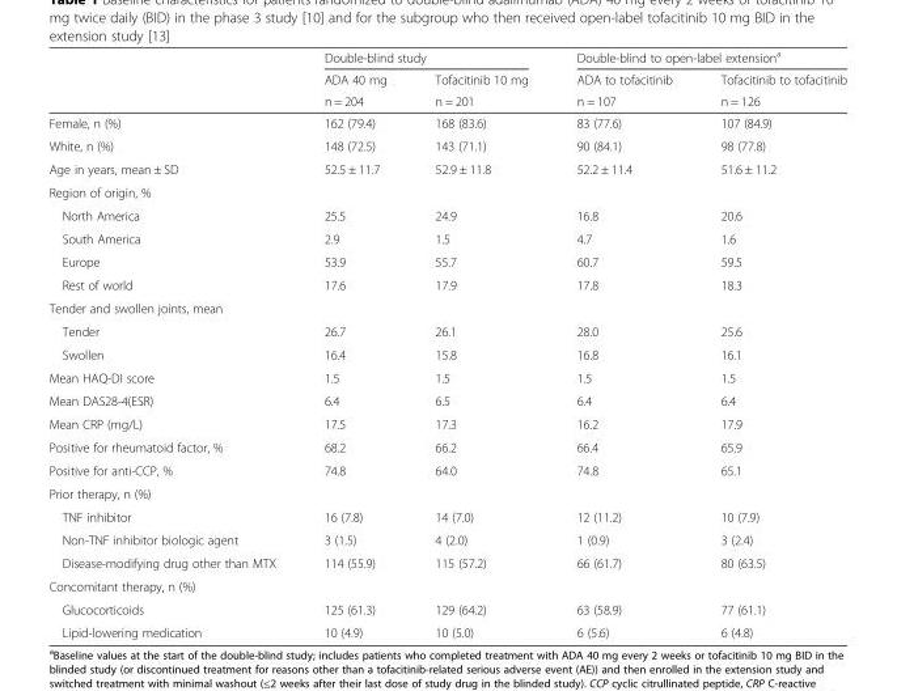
<table><thead><tr><td rowspan="3"></td><td colspan="2">Double-blind study</td><td colspan="2">Double-blind to open-label extension<sup>a</sup></td></tr><tr><td rowspan="2">ADA 40 mg n = 204</td><td rowspan="2">Tofacitinib 10 mg n = 201</td><td rowspan="2">ADA to tofacitinib n = 107</td><td rowspan="2">Tofacitinib to tofacitinib n = 126</td></tr><tr></tr></thead><tbody><tr><td>Female, n (%)</td><td>162 (79.4)</td><td>168 (83.6)</td><td>83 (77.6)</td><td>107 (84.9)</td></tr><tr><td>White, n (%)</td><td>148 (72.5)</td><td>143 (71.1)</td><td>90 (84.1)</td><td>98 (77.8)</td></tr><tr><td>Age in years, mean ± SD</td><td>52.5 ± 11.7</td><td>52.9 ± 11.8</td><td>52.2 ± 11.4</td><td>51.6 ± 11.2</td></tr><tr><td colspan="5">Region of origin, %</td></tr><tr><td>North America</td><td>25.5</td><td>24.9</td><td>16.8</td><td>20.6</td></tr><tr><td>South America</td><td>2.9</td><td>1.5</td><td>4.7</td><td>1.6</td></tr><tr><td>Europe</td><td>53.9</td><td>55.7</td><td>60.7</td><td>59.5</td></tr><tr><td>Rest of world</td><td>17.6</td><td>17.9</td><td>17.8</td><td>18.3</td></tr><tr><td colspan="5">Tender and swollen joints, mean</td></tr><tr><td>Tender</td><td>26.7</td><td>26.1</td><td>28.0</td><td>25.6</td></tr><tr><td>Swollen</td><td>16.4</td><td>15.8</td><td>16.8</td><td>16.1</td></tr><tr><td>Mean HAQ-DI score</td><td>1.5</td><td>1.5</td><td>1.5</td><td>1.5</td></tr><tr><td>Mean DAS28-4(ESR)</td><td>6.4</td><td>6.5</td><td>6.4</td><td>6.4</td></tr><tr><td>Mean CRP (mg/L)</td><td>17.5</td><td>17.3</td><td>16.2</td><td>17.9</td></tr><tr><td>Positive for rheumatoid factor, %</td><td>68.2</td><td>66.2</td><td>66.4</td><td>65.9</td></tr><tr><td>Positive for anti-CCP, %</td><td>74.8</td><td>64.0</td><td>74.8</td><td>65.1</td></tr><tr><td colspan="5">Prior therapy, n (%)</td></tr><tr><td>TNF inhibitor</td><td>16 (7.8)</td><td>14 (7.0)</td><td>12 (11.2)</td><td>10 (7.9)</td></tr><tr><td>Non-TNF inhibitor biologic agent</td><td>3 (1.5)</td><td>4 (2.0)</td><td>1 (0.9)</td><td>3 (2.4)</td></tr><tr><td>Disease-modifying drug other than MTX</td><td>114 (55.9)</td><td>115 (57.2)</td><td>66 (61.7)</td><td>80 (63.5)</td></tr><tr><td colspan="5">Concomitant therapy, n (%)</td></tr><tr><td>Glucocorticoids</td><td>125 (61.3)</td><td>129 (64.2)</td><td>63 (58.9)</td><td>77 (61.1)</td></tr><tr><td>Lipid-lowering medication</td><td>10 (4.9)</td><td>10 (5.0)</td><td>6 (5.6)</td><td>6 (4.8)</td></tr></tbody></table>